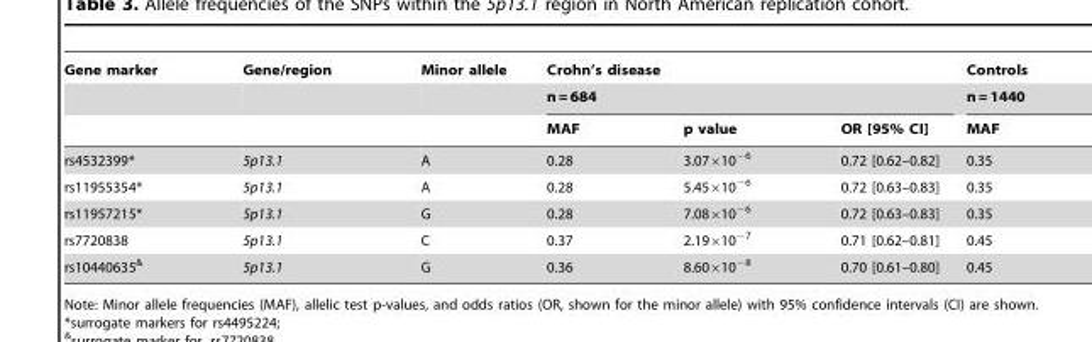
<table><thead><tr><td rowspan="3">Gene marker</td><td rowspan="3">Gene/region</td><td rowspan="3">Minor allele</td><td rowspan="2" colspan="3">Crohn’s disease n = 684</td><td rowspan="3">Controls n = 1440 MAF</td></tr><tr></tr><tr><td>MAF</td><td>p value</td><td>OR [95% CI]</td></tr></thead><tbody><tr><td>rs4532399*</td><td>5p13.1</td><td>A</td><td>0.28</td><td>3.07×10<sup>−6</sup></td><td>0.72 [0.62–0.82]</td><td>0.35</td></tr><tr><td>rs11955354*</td><td>5p13.1</td><td>A</td><td>0.28</td><td>5.45×10<sup>−6</sup></td><td>0.72 [0.63–0.83]</td><td>0.35</td></tr><tr><td>rs11957215*</td><td>5p13.1</td><td>G</td><td>0.28</td><td>7.08×10<sup>−6</sup></td><td>0.72 [0.63–0.83]</td><td>0.35</td></tr><tr><td>rs7720838</td><td>5p13.1</td><td>C</td><td>0.37</td><td>2.19×10<sup>−7</sup></td><td>0.71 [0.62–0.81]</td><td>0.45</td></tr><tr><td>rs10440635&amp;</td><td>5p13.1</td><td>G</td><td>0.36</td><td>8.60×10<sup>−8</sup></td><td>0.70 [0.61–0.80]</td><td>0.45</td></tr></tbody></table>